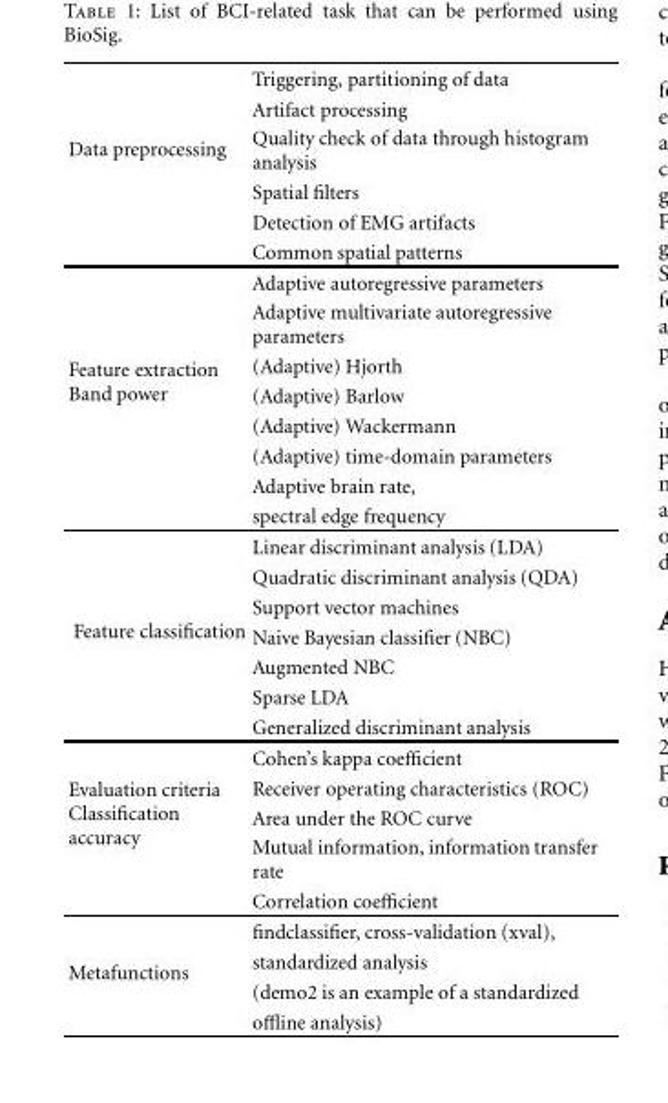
<table><tbody><tr><td rowspan="6">Data preprocessing</td><td>Triggering, partitioning of data</td></tr><tr><td>Artifact processing</td></tr><tr><td>Quality check of data through histogram analysis</td></tr><tr><td>Spatial filters</td></tr><tr><td>Detection of EMG artifacts</td></tr><tr><td>Common spatial patterns</td></tr><tr><td rowspan="8">Feature extraction Band power</td><td>Adaptive autoregressive parameters</td></tr><tr><td>Adaptive multivariate autoregressive parameters</td></tr><tr><td>(Adaptive) Hjorth</td></tr><tr><td>(Adaptive) Barlow</td></tr><tr><td>(Adaptive) Wackermann</td></tr><tr><td>(Adaptive) time-domain parameters</td></tr><tr><td>Adaptive brain rate,</td></tr><tr><td>spectral edge frequency</td></tr><tr><td rowspan="7">Feature classification</td><td>Linear discriminant analysis (LDA)</td></tr><tr><td>Quadratic discriminant analysis (QDA)</td></tr><tr><td>Support vector machines</td></tr><tr><td>Naive Bayesian classifier (NBC)</td></tr><tr><td>Augmented NBC</td></tr><tr><td>Sparse LDA</td></tr><tr><td>Generalized discriminant analysis</td></tr><tr><td rowspan="5">Evaluation criteria Classification accuracy</td><td>Cohen’s kappa coefficient</td></tr><tr><td>Receiver operating characteristics (ROC)</td></tr><tr><td>Area under the ROC curve</td></tr><tr><td>Mutual information, information transfer rate</td></tr><tr><td>Correlation coefficient</td></tr><tr><td rowspan="4">Metafunctions</td><td>findclassifier, cross-validation (xval),</td></tr><tr><td>standardized analysis</td></tr><tr><td>(demo2 is an example of a standardized</td></tr><tr><td>offline analysis)</td></tr></tbody></table>